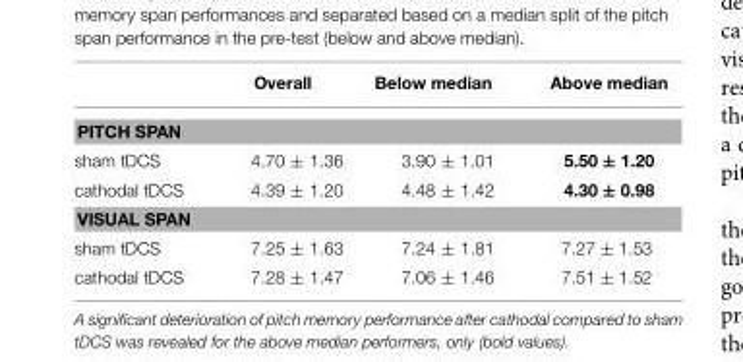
<table><thead><tr><td></td><td>Overall</td><td>Below median</td><td>Above median</td></tr></thead><tbody><tr><td colspan="4">PITCH SPAN</td></tr><tr><td>sham tDCS</td><td>4.70 ± 1.36</td><td>3.90 ± 1.01</td><td>5.50 ± 1.20</td></tr><tr><td>cathodal tDCS</td><td>4.39 ± 1.20</td><td>4.48 ± 1.42</td><td>4.30 ± 0.98</td></tr><tr><td colspan="4">VISUAL SPAN</td></tr><tr><td>sham tDCS</td><td>7.25 ± 1.63</td><td>7.24 ± 1.81</td><td>7.27 ± 1.53</td></tr><tr><td>cathodal tDCS</td><td>7.28 ± 1.47</td><td>7.06 ± 1.46</td><td>7.51 ± 1.52</td></tr></tbody></table>